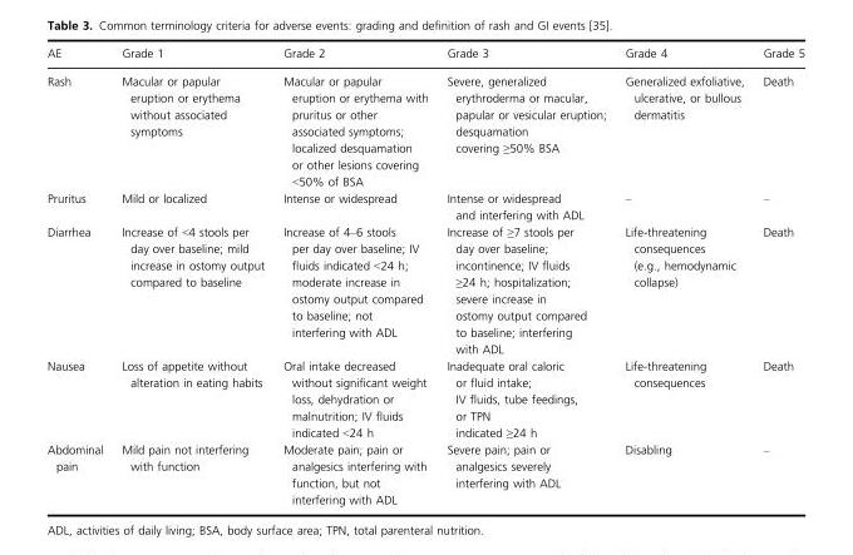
<table><thead><tr><td>AE</td><td>Grade 1</td><td>Grade 2</td><td>Grade 3</td><td>Grade 4</td><td>Grade 5</td></tr></thead><tbody><tr><td>Rash</td><td>Macular or papular eruption or erythema without associated symptoms</td><td>Macular or papular eruption or erythema with pruritus or other associated symptoms; localized desquamation or other lesions covering &lt;50% of BSA</td><td>Severe, generalized erythroderma or macular, papular or vesicular eruption; desquamation covering ≥50% BSA</td><td>Generalized exfoliative, ulcerative, or bullous dermatitis</td><td>Death</td></tr><tr><td>Pruritus</td><td>Mild or localized</td><td>Intense or widespread</td><td>Intense or widespread and interfering with ADL</td><td>–</td><td>–</td></tr><tr><td>Diarrhea</td><td>Increase of &lt;4 stools per day over baseline; mild increase in ostomy output compared to baseline</td><td>Increase of 4–6 stools per day over baseline; IV fluids indicated &lt;24 h; moderate increase in ostomy output compared to baseline; not interfering with ADL</td><td>Increase of ≥7 stools per day over baseline; incontinence; IV fluids ≥24 h; hospitalization; severe increase in ostomy output compared to baseline; interfering with ADL</td><td>Life-threatening consequences (e.g., hemodynamic collapse)</td><td>Death</td></tr><tr><td>Nausea</td><td>Loss of appetite without alteration in eating habits</td><td>Oral intake decreased without significant weight loss, dehydration or malnutrition; IV fluids indicated &lt;24 h</td><td>Inadequate oral caloric or fluid intake; IV fluids, tube feedings, or TPN indicated ≥24 h</td><td>Life-threatening consequences</td><td>Death</td></tr><tr><td>Abdominal pain</td><td>Mild pain not interfering with function</td><td>Moderate pain; pain or analgesics interfering with function, but not interfering with ADL</td><td>Severe pain; pain or analgesics severely interfering with ADL</td><td>Disabling</td><td>–</td></tr></tbody></table>